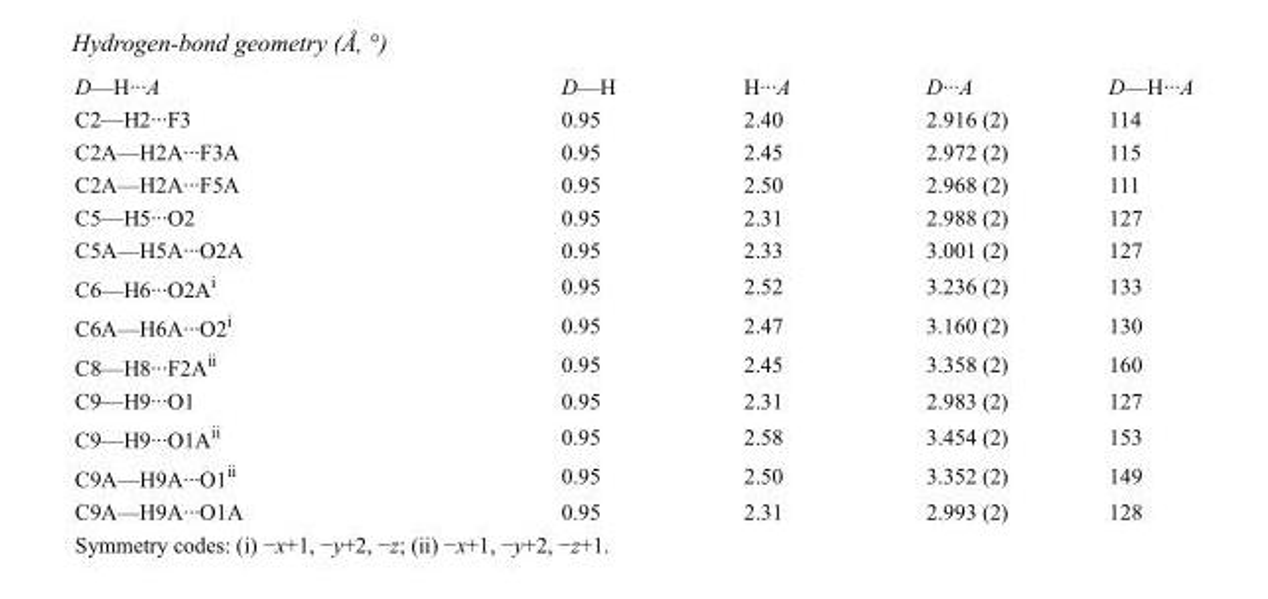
<table><tbody><tr><td>D—H···A</td><td>D—H</td><td>H···A</td><td>D···A</td><td>D—H···A</td></tr><tr><td>C2—H2···F3</td><td>0.95</td><td>2.40</td><td>2.916 (2)</td><td>114</td></tr><tr><td>C2A—H2A···F3A</td><td>0.95</td><td>2.45</td><td>2.972 (2)</td><td>115</td></tr><tr><td>C2A—H2A···F5A</td><td>0.95</td><td>2.50</td><td>2.968 (2)</td><td>111</td></tr><tr><td>C5—H5···O2</td><td>0.95</td><td>2.31</td><td>2.988 (2)</td><td>127</td></tr><tr><td>C5A—H5A···O2A</td><td>0.95</td><td>2.33</td><td>3.001 (2)</td><td>127</td></tr><tr><td>C6—H6···O2A<sup>i</sup></td><td>0.95</td><td>2.52</td><td>3.236 (2)</td><td>133</td></tr><tr><td>C6A—H6A···O2<sup>i</sup></td><td>0.95</td><td>2.47</td><td>3.160 (2)</td><td>130</td></tr><tr><td>C8—H8···F2A<sup>ii</sup></td><td>0.95</td><td>2.45</td><td>3.358 (2)</td><td>160</td></tr><tr><td>C9—H9···O1</td><td>0.95</td><td>2.31</td><td>2.983 (2)</td><td>127</td></tr><tr><td>C9—H9···O1A<sup>ii</sup></td><td>0.95</td><td>2.58</td><td>3.454 (2)</td><td>153</td></tr><tr><td>C9A—H9A···O1<sup>ii</sup></td><td>0.95</td><td>2.50</td><td>3.352 (2)</td><td>149</td></tr><tr><td>C9A—H9A···O1A</td><td>0.95</td><td>2.31</td><td>2.993 (2)</td><td>128</td></tr></tbody></table>